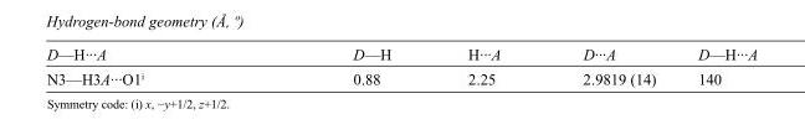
<table><tbody><tr><td>D—H···A</td><td>D—H</td><td>H···A</td><td>D···A</td><td>D—H···A</td></tr><tr><td>N3—H3A···O1<sup>i</sup></td><td>0.88</td><td>2.25</td><td>2.9819 (14)</td><td>140</td></tr></tbody></table>